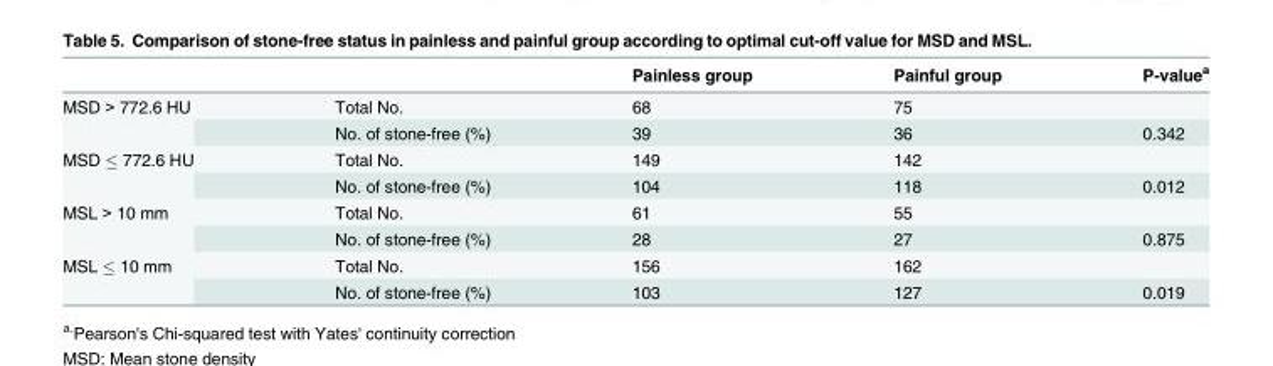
<table><thead><tr><td></td><td></td><td>Painless group</td><td>Painful group</td><td>P-value<sup>a</sup></td></tr></thead><tbody><tr><td rowspan="2">MSD &gt; 772.6 HU</td><td>Total No.</td><td>68</td><td>75</td><td></td></tr><tr><td>No. of stone-free (%)</td><td>39</td><td>36</td><td>0.342</td></tr><tr><td rowspan="2">MSD ≤ 772.6 HU</td><td>Total No.</td><td>149</td><td>142</td><td></td></tr><tr><td>No. of stone-free (%)</td><td>104</td><td>118</td><td>0.012</td></tr><tr><td rowspan="2">MSL &gt; 10 mm</td><td>Total No.</td><td>61</td><td>55</td><td></td></tr><tr><td>No. of stone-free (%)</td><td>28</td><td>27</td><td>0.875</td></tr><tr><td rowspan="2">MSL ≤ 10 mm</td><td>Total No.</td><td>156</td><td>162</td><td></td></tr><tr><td>No. of stone-free (%)</td><td>103</td><td>127</td><td>0.019</td></tr></tbody></table>